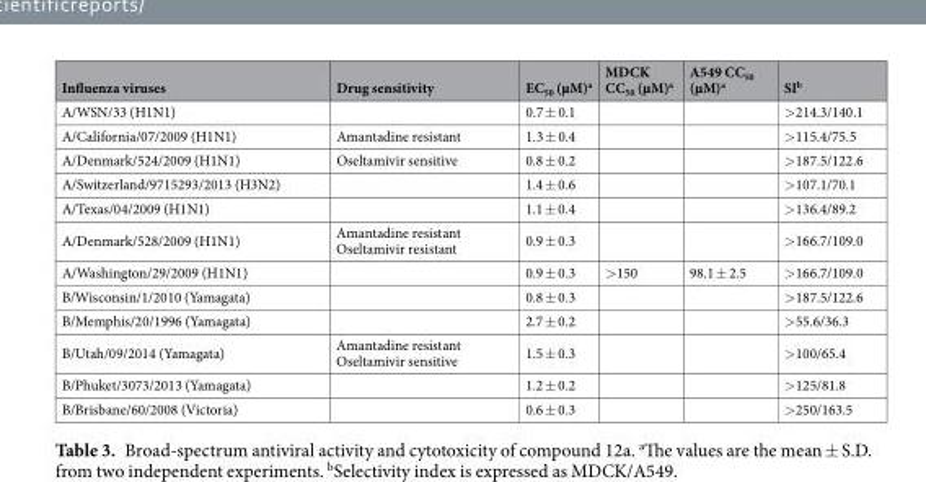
<table><thead><tr><td>Influenza viruses</td><td>Drug sensitivity</td><td>EC<sub>50</sub> (µM)<sup>a</sup></td><td>MDCK CC<sub>50</sub> (µM)<sup>a</sup></td><td>A549 CC<sub>50</sub> (µM)<sup>a</sup></td><td>SI<sup>b</sup></td></tr></thead><tbody><tr><td>A/WSN/33 (H1N1)</td><td></td><td>0.7 ± 0.1</td><td></td><td></td><td>&gt;214.3/140.1</td></tr><tr><td>A/California/07/2009 (H1N1)</td><td>Amantadine resistant</td><td>1.3 ± 0.4</td><td></td><td></td><td>&gt;115.4/75.5</td></tr><tr><td>A/Denmark/524/2009 (H1N1)</td><td>Oseltamivir sensitive</td><td>0.8 ± 0.2</td><td></td><td></td><td>&gt;187.5/122.6</td></tr><tr><td>A/Switzerland/9715293/2013 (H3N2)</td><td></td><td>1.4 ± 0.6</td><td></td><td></td><td>&gt;107.1/70.1</td></tr><tr><td>A/Texas/04/2009 (H1N1)</td><td></td><td>1.1 ± 0.4</td><td></td><td></td><td>&gt;136.4/89.2</td></tr><tr><td>A/Denmark/528/2009 (H1N1)</td><td>Amantadine resistant Oseltamivir resistant</td><td>0.9 ± 0.3</td><td></td><td></td><td>&gt;166.7/109.0</td></tr><tr><td>A/Washington/29/2009 (H1N1)</td><td></td><td>0.9 ± 0.3</td><td>&gt;150</td><td>98.1 ± 2.5</td><td>&gt;166.7/109.0</td></tr><tr><td>B/Wisconsin/1/2010 (Yamagata)</td><td></td><td>0.8 ± 0.3</td><td></td><td></td><td>&gt;187.5/122.6</td></tr><tr><td>B/Memphis/20/1996 (Yamagata)</td><td></td><td>2.7 ± 0.2</td><td></td><td></td><td>&gt;55.6/36.3</td></tr><tr><td>B/Utah/09/2014 (Yamagata)</td><td>Amantadine resistant Oseltamivir sensitive</td><td>1.5 ± 0.3</td><td></td><td></td><td>&gt;100/65.4</td></tr><tr><td>B/Phuket/3073/2013 (Yamagata)</td><td></td><td>1.2 ± 0.2</td><td></td><td></td><td>&gt;125/81.8</td></tr><tr><td>B/Brisbane/60/2008 (Victoria)</td><td></td><td>0.6 ± 0.3</td><td></td><td></td><td>&gt;250/163.5</td></tr></tbody></table>